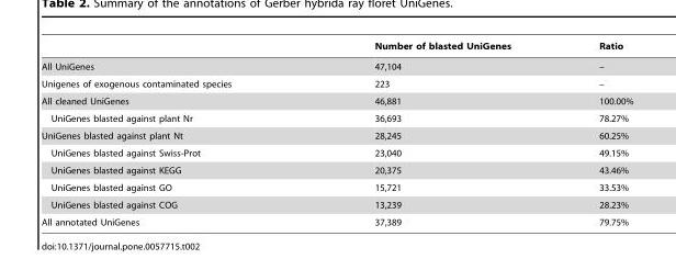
<table><thead><tr><td></td><td>Number of blasted UniGenes</td><td>Ratio</td></tr></thead><tbody><tr><td>All UniGenes</td><td>47,104</td><td>–</td></tr><tr><td>Unigenes of exogenous contaminated species</td><td>223</td><td>–</td></tr><tr><td>All cleaned UniGenes</td><td>46,881</td><td>100.00%</td></tr><tr><td>UniGenes blasted against plant Nr</td><td>36,693</td><td>78.27%</td></tr><tr><td>UniGenes blasted against plant Nt</td><td>28,245</td><td>60.25%</td></tr><tr><td>UniGenes blasted against Swiss-Prot</td><td>23,040</td><td>49.15%</td></tr><tr><td>UniGenes blasted against KEGG</td><td>20,375</td><td>43.46%</td></tr><tr><td>UniGenes blasted against GO</td><td>15,721</td><td>33.53%</td></tr><tr><td>UniGenes blasted against COG</td><td>13,239</td><td>28.23%</td></tr><tr><td>All annotated UniGenes</td><td>37,389</td><td>79.75%</td></tr></tbody></table>